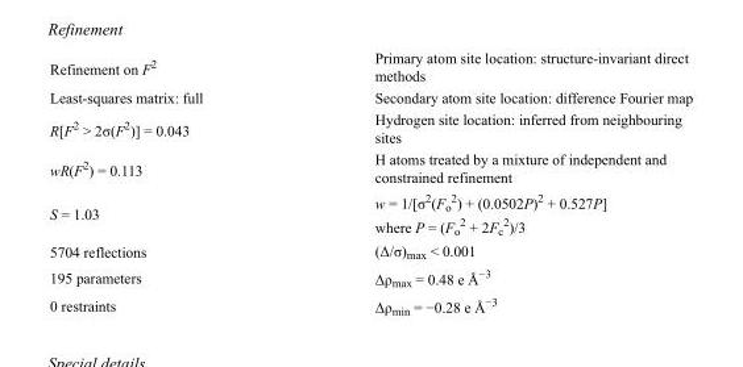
<table><tbody><tr><td>Refinement on F<sup>2</sup></td><td>Primary atom site location: structure-invariant direct methods</td></tr><tr><td>Least-squares matrix: full</td><td>Secondary atom site location: difference Fourier map</td></tr><tr><td>R[F<sup>2</sup> &gt; 2σ(F<sup>2</sup>)] = 0.043</td><td>Hydrogen site location: inferred from neighbouring sites</td></tr><tr><td>wR(F<sup>2</sup>) = 0.113</td><td>H atoms treated by a mixture of independent and constrained refinement</td></tr><tr><td>S = 1.03</td><td>w = 1/[σ<sup>2</sup>(F<sub>o</sub> <sup>2</sup>) + (0.0502P)<sup>2</sup> + 0.527P] where P = (F<sub>o</sub> <sup>2</sup> + 2F<sub>c</sub> <sup>2</sup>)/3</td></tr><tr><td>5704 reflections</td><td>(Δ/σ)<sub>max</sub> &lt; 0.001</td></tr><tr><td>195 parameters</td><td>Δρ<sub>max</sub> = 0.48 e Å<sup>−3</sup></td></tr><tr><td>0 restraints</td><td>Δρ<sub>min</sub> = −0.28 e Å<sup>−3</sup></td></tr></tbody></table>